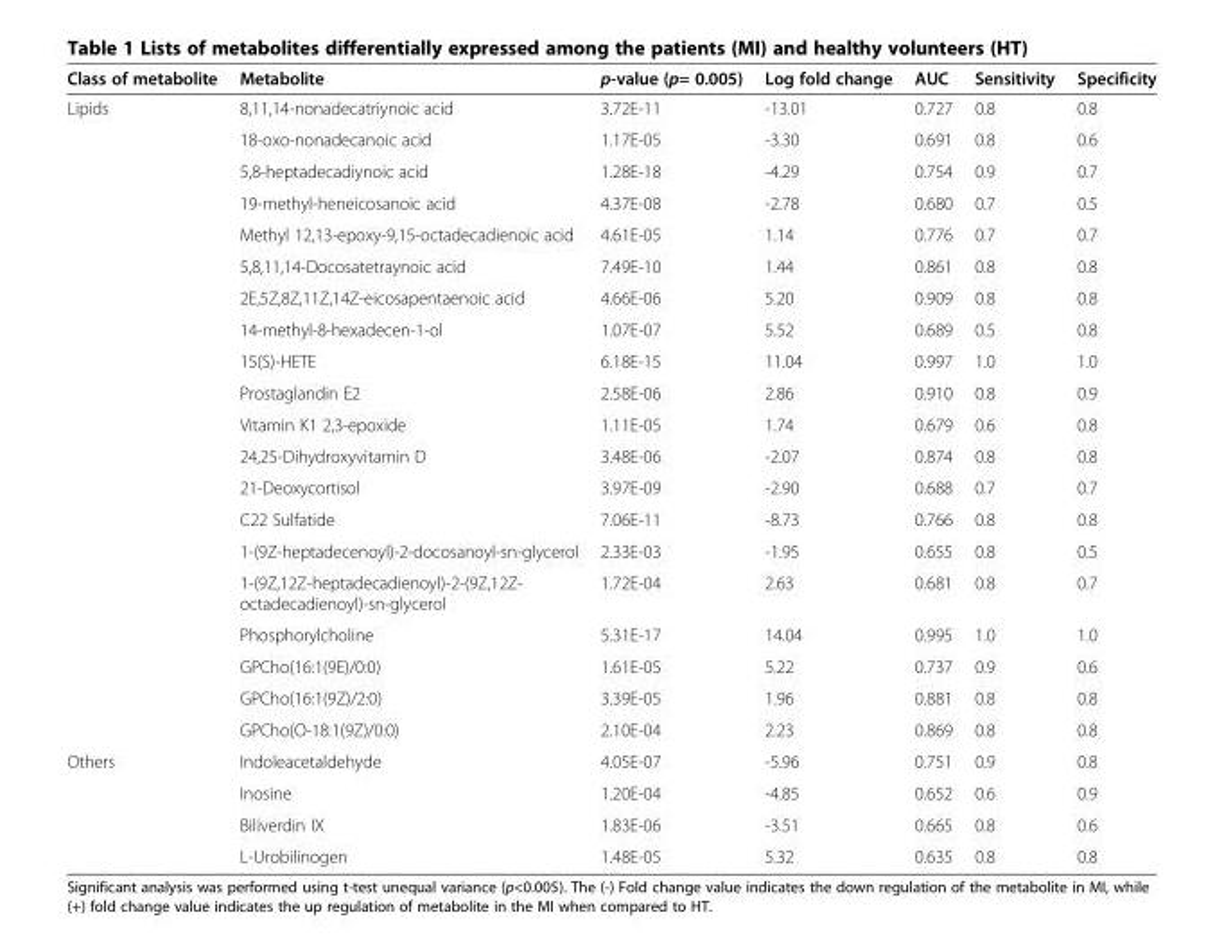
<table><thead><tr><td>Class of metabolite</td><td>Metabolite</td><td>p-value (p= 0.005)</td><td>Log fold change</td><td>AUC</td><td>Sensitivity</td><td>Specificity</td></tr></thead><tbody><tr><td rowspan="20">Lipids</td><td>8,11,14-nonadecatriynoic acid</td><td>3.72E-11</td><td>-13.01</td><td>0.727</td><td>0.8</td><td>0.8</td></tr><tr><td>18-oxo-nonadecanoic acid</td><td>1.17E-05</td><td>-3.30</td><td>0.691</td><td>0.8</td><td>0.6</td></tr><tr><td>5,8-heptadecadiynoic acid</td><td>1.28E-18</td><td>-4.29</td><td>0.754</td><td>0.9</td><td>0.7</td></tr><tr><td>19-methyl-heneicosanoic acid</td><td>4.37E-08</td><td>-2.78</td><td>0.680</td><td>0.7</td><td>0.5</td></tr><tr><td>Methyl 12,13-epoxy-9,15-octadecadienoic acid</td><td>4.61E-05</td><td>1.14</td><td>0.776</td><td>0.7</td><td>0.7</td></tr><tr><td>5,8,11,14-Docosatetraynoic acid</td><td>7.49E-10</td><td>1.44</td><td>0.861</td><td>0.8</td><td>0.8</td></tr><tr><td>2E,5Z,8Z,11Z,14Z-eicosapentaenoic acid</td><td>4.66E-06</td><td>5.20</td><td>0.909</td><td>0.8</td><td>0.8</td></tr><tr><td>14-methyl-8-hexadecen-1-ol</td><td>1.07E-07</td><td>5.52</td><td>0.689</td><td>0.5</td><td>0.8</td></tr><tr><td>15(S)-HETE</td><td>6.18E-15</td><td>11.04</td><td>0.997</td><td>1.0</td><td>1.0</td></tr><tr><td>Prostaglandin E2</td><td>2.58E-06</td><td>2.86</td><td>0.910</td><td>0.8</td><td>0.9</td></tr><tr><td>Vitamin K1 2,3-epoxide</td><td>1.11E-05</td><td>1.74</td><td>0.679</td><td>0.6</td><td>0.8</td></tr><tr><td>24,25-Dihydroxyvitamin D</td><td>3.48E-06</td><td>-2.07</td><td>0.874</td><td>0.8</td><td>0.8</td></tr><tr><td>21-Deoxycortisol</td><td>3.97E-09</td><td>-2.90</td><td>0.688</td><td>0.7</td><td>0.7</td></tr><tr><td>C22 Sulfatide</td><td>7.06E-11</td><td>-8.73</td><td>0.766</td><td>0.8</td><td>0.8</td></tr><tr><td>1-(9Z-heptadecenoyl)-2-docosanoyl-sn-glycerol</td><td>2.33E-03</td><td>-1.95</td><td>0.655</td><td>0.8</td><td>0.5</td></tr><tr><td>1-(9Z,12Z-heptadecadienoyl)-2-(9Z,12Z- octadecadienoyl)-sn-glycerol</td><td>1.72E-04</td><td>2.63</td><td>0.681</td><td>0.8</td><td>0.7</td></tr><tr><td>Phosphorylcholine</td><td>5.31E-17</td><td>14.04</td><td>0.995</td><td>1.0</td><td>1.0</td></tr><tr><td>GPCho(16:1(9E)/0:0)</td><td>1.61E-05</td><td>5.22</td><td>0.737</td><td>0.9</td><td>0.6</td></tr><tr><td>GPCho(16:1(9Z)/2:0)</td><td>3.39E-05</td><td>1.96</td><td>0.881</td><td>0.8</td><td>0.8</td></tr><tr><td>GPCho(O-18:1(9Z)/0:0)</td><td>2.10E-04</td><td>2.23</td><td>0.869</td><td>0.8</td><td>0.8</td></tr><tr><td rowspan="4">Others</td><td>Indoleacetaldehyde</td><td>4.05E-07</td><td>-5.96</td><td>0.751</td><td>0.9</td><td>0.8</td></tr><tr><td>Inosine</td><td>1.20E-04</td><td>-4.85</td><td>0.652</td><td>0.6</td><td>0.9</td></tr><tr><td>Biliverdin IX</td><td>1.83E-06</td><td>-3.51</td><td>0.665</td><td>0.8</td><td>0.6</td></tr><tr><td>L-Urobilinogen</td><td>1.48E-05</td><td>5.32</td><td>0.635</td><td>0.8</td><td>0.8</td></tr></tbody></table>